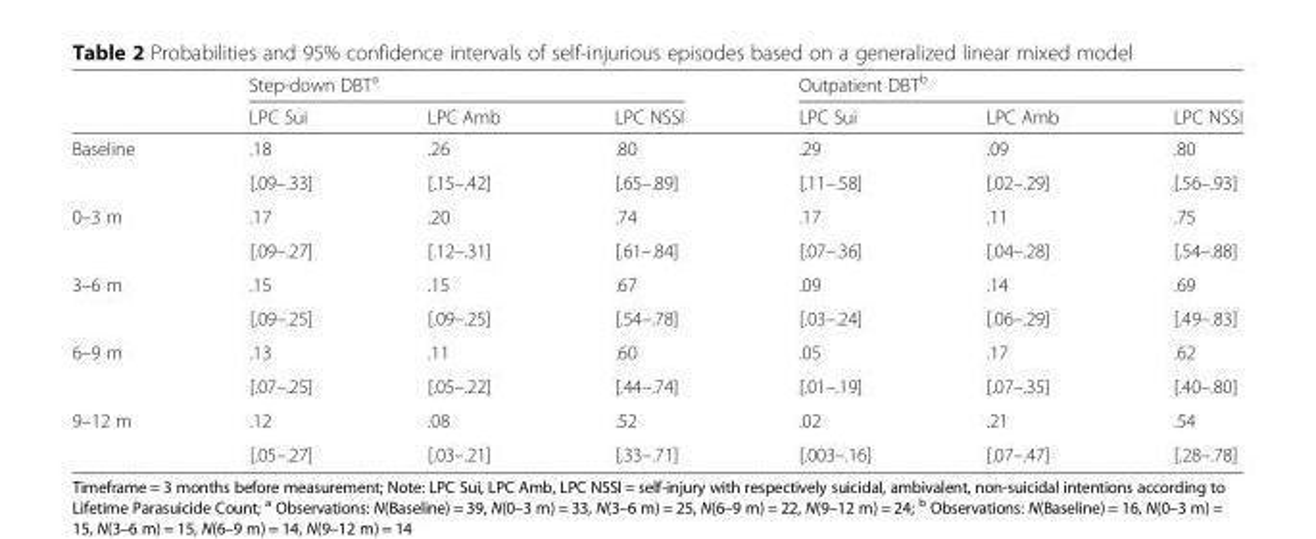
<table><thead><tr><td rowspan="2"></td><td colspan="3">Step-down DBT<sup>a</sup></td><td colspan="3">Outpatient DBT<sup>b</sup></td></tr><tr><td>LPC Sui</td><td>LPC Amb</td><td>LPC NSSI</td><td>LPC Sui</td><td>LPC Amb</td><td>LPC NSSI</td></tr></thead><tbody><tr><td rowspan="2">Baseline</td><td>.18</td><td>.26</td><td>.80</td><td>.29</td><td>.09</td><td>.80</td></tr><tr><td>[.09–.33]</td><td>[.15–.42]</td><td>[.65–.89]</td><td>[.11–.58]</td><td>[.02–.29]</td><td>[.56–.93]</td></tr><tr><td rowspan="2">0–3 m</td><td>.17</td><td>.20</td><td>.74</td><td>.17</td><td>.11</td><td>.75</td></tr><tr><td>[.09–.27]</td><td>[.12–.31]</td><td>[.61–.84]</td><td>[.07–.36]</td><td>[.04–.28]</td><td>[.54–.88]</td></tr><tr><td rowspan="2">3–6 m</td><td>.15</td><td>.15</td><td>.67</td><td>.09</td><td>.14</td><td>.69</td></tr><tr><td>[.09–.25]</td><td>[.09–.25]</td><td>[.54–.78]</td><td>[.03–.24]</td><td>[.06–.29]</td><td>[.49–.83]</td></tr><tr><td rowspan="2">6–9 m</td><td>.13</td><td>.11</td><td>.60</td><td>.05</td><td>.17</td><td>.62</td></tr><tr><td>[.07–.25]</td><td>[.05–.22]</td><td>[.44–.74]</td><td>[.01–.19]</td><td>[.07–.35]</td><td>[.40–.80]</td></tr><tr><td rowspan="2">9–12 m</td><td>.12</td><td>.08</td><td>.52</td><td>.02</td><td>.21</td><td>.54</td></tr><tr><td>[.05–.27]</td><td>[.03–.21]</td><td>[.33–.71]</td><td>[.003–.16]</td><td>[.07–.47]</td><td>[.28–.78]</td></tr></tbody></table>